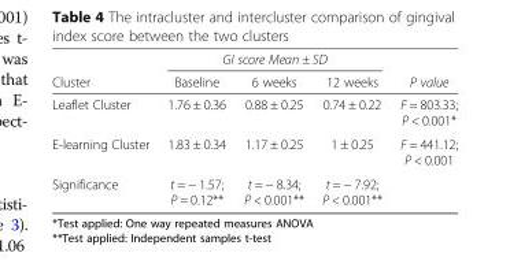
<table><thead><tr><td rowspan="2">Cluster</td><td colspan="3">GI score Mean ± SD</td><td rowspan="2">P value</td></tr><tr><td>Baseline</td><td>6 weeks</td><td>12 weeks</td></tr></thead><tbody><tr><td>Leaflet Cluster</td><td>1.76 ± 0.36</td><td>0.88 ± 0.25</td><td>0.74 ± 0.22</td><td>F = 803.33; P &lt; 0.001*</td></tr><tr><td>E-learning Cluster</td><td>1.83 ± 0.34</td><td>1.17 ± 0.25</td><td>1 ± 0.25</td><td>F = 441.12; P &lt; 0.001</td></tr><tr><td>Significance</td><td>t = − 1.57; P = 0.12**</td><td>t = − 8.34; P &lt; 0.001**</td><td>t = − 7.92; P &lt; 0.001**</td><td></td></tr></tbody></table>